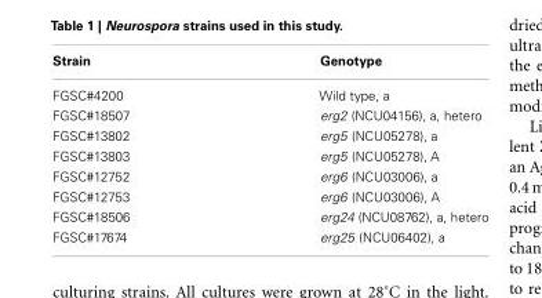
<table><thead><tr><td>Strain</td><td>Genotype</td></tr></thead><tbody><tr><td>FGSC#4200</td><td>Wild type, a</td></tr><tr><td>FGSC#18507</td><td>erg2 (NCU04156), a, hetero</td></tr><tr><td>FGSC#13802</td><td>erg5 (NCU05278), a</td></tr><tr><td>FGSC#13803</td><td>erg5 (NCU05278), A</td></tr><tr><td>FGSC#12752</td><td>erg6 (NCU03006), a</td></tr><tr><td>FGSC#12753</td><td>erg6 (NCU03006), A</td></tr><tr><td>FGSC#18506</td><td>erg24 (NCU08762), a, hetero</td></tr><tr><td>FGSC#17674</td><td>erg25 (NCU06402), a</td></tr></tbody></table>